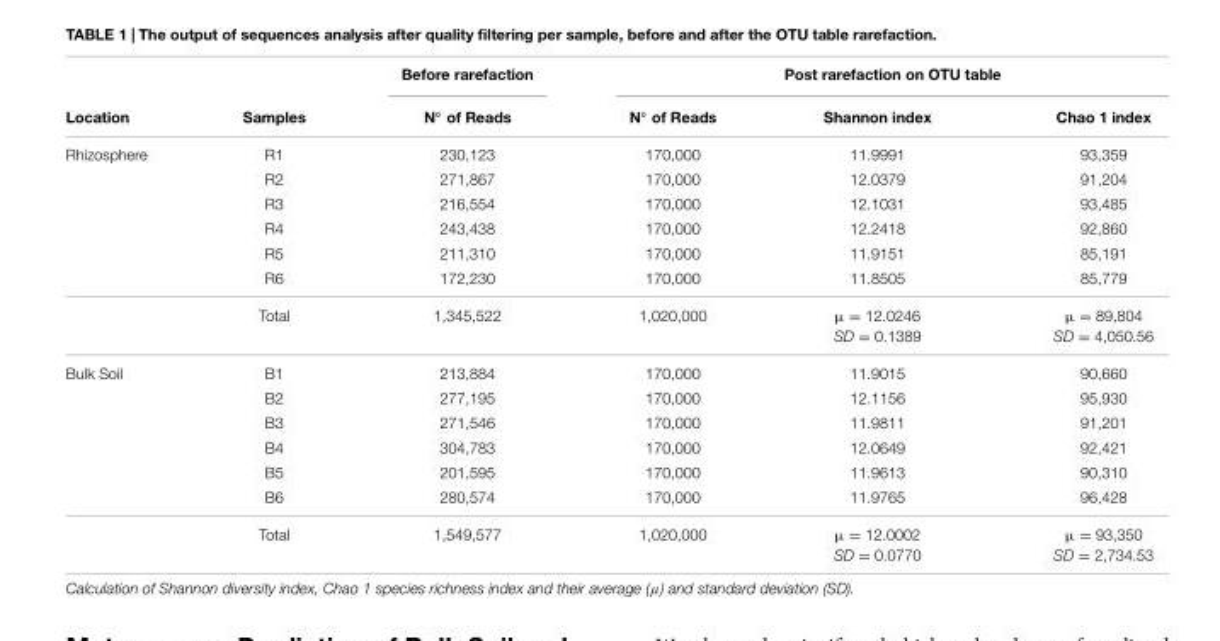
<table><thead><tr><td rowspan="2">Location</td><td rowspan="2">Samples</td><td rowspan="2">Before rarefaction N◦ of Reads</td><td colspan="3">Post rarefaction on OTU table</td></tr><tr><td>N◦ of Reads</td><td>Shannon index</td><td>Chao 1 index</td></tr></thead><tbody><tr><td rowspan="7">Rhizosphere</td><td>R1</td><td>230,123</td><td>170,000</td><td>11.9991</td><td>93,359</td></tr><tr><td>R2</td><td>271,867</td><td>170,000</td><td>12.0379</td><td>91,204</td></tr><tr><td>R3</td><td>216,554</td><td>170,000</td><td>12.1031</td><td>93,485</td></tr><tr><td>R4</td><td>243,438</td><td>170,000</td><td>12.2418</td><td>92,860</td></tr><tr><td>R5</td><td>211,310</td><td>170,000</td><td>11.9151</td><td>85,191</td></tr><tr><td>R6</td><td>172,230</td><td>170,000</td><td>11.8505</td><td>85,779</td></tr><tr><td>Total</td><td>1,345,522</td><td>1,020,000</td><td>µ = 12.0246 SD = 0.1389</td><td>µ = 89,804 SD = 4,050.56</td></tr><tr><td rowspan="7">Bulk Soil</td><td>B1</td><td>213,884</td><td>170,000</td><td>11.9015</td><td>90,660</td></tr><tr><td>B2</td><td>277,195</td><td>170,000</td><td>12.1156</td><td>95,930</td></tr><tr><td>B3</td><td>271,546</td><td>170,000</td><td>11.9811</td><td>91,201</td></tr><tr><td>B4</td><td>304,783</td><td>170,000</td><td>12.0649</td><td>92,421</td></tr><tr><td>B5</td><td>201,595</td><td>170,000</td><td>11.9613</td><td>90,310</td></tr><tr><td>B6</td><td>280,574</td><td>170,000</td><td>11.9765</td><td>96,428</td></tr><tr><td>Total</td><td>1,549,577</td><td>1,020,000</td><td>µ = 12.0002 SD = 0.0770</td><td>µ = 93,350 SD = 2,734.53</td></tr></tbody></table>